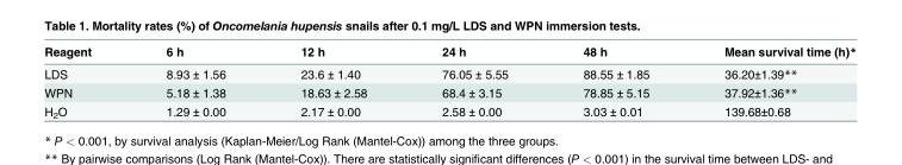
<table><thead><tr><td>Reagent</td><td>6 h</td><td>12 h</td><td>24 h</td><td>48 h</td><td>Mean survival time (h)*</td></tr></thead><tbody><tr><td>LDS</td><td>8.93 ± 1.56</td><td>23.6 ± 1.40</td><td>76.05 ± 5.55</td><td>88.55 ± 1.85</td><td>36.20±1.39**</td></tr><tr><td>WPN</td><td>5.18 ± 1.38</td><td>18.63 ± 2.58</td><td>68.4 ± 3.15</td><td>78.85 ± 5.15</td><td>37.92±1.36**</td></tr><tr><td>H<sub>2</sub>O</td><td>1.29 ± 0.00</td><td>2.17 ± 0.00</td><td>2.58 ± 0.00</td><td>3.03 ± 0.01</td><td>139.68±0.68</td></tr></tbody></table>